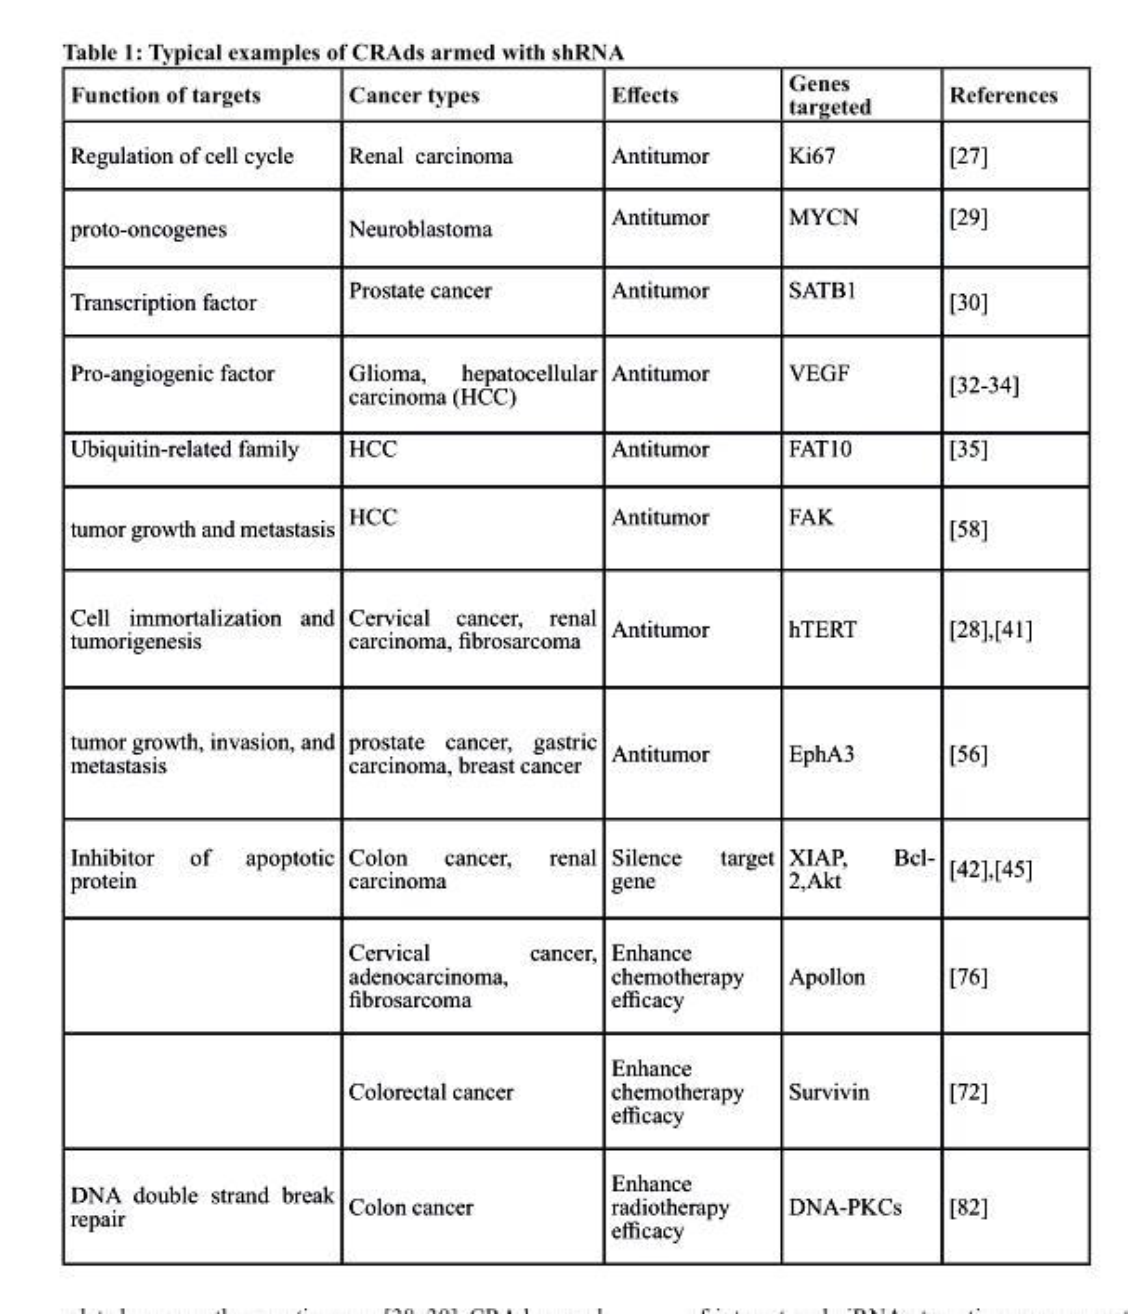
<table><thead><tr><td>Function of targets</td><td>Cancer types</td><td>Effects</td><td>genes targeted</td><td>references</td></tr></thead><tbody><tr><td>Regulation of cell cycle</td><td>Renal carcinoma</td><td>Antitumor</td><td>Ki67</td><td>[27]</td></tr><tr><td>proto-oncogenes</td><td>Neuroblastoma</td><td>Antitumor</td><td>MYCN</td><td>[29]</td></tr><tr><td>Transcription factor</td><td>Prostate cancer</td><td>Antitumor</td><td>SATB1</td><td>[30]</td></tr><tr><td>Pro-angiogenic factor</td><td>Glioma, hepatocellular carcinoma (HCC)</td><td>Antitumor</td><td>VEGF</td><td>[32-34]</td></tr><tr><td>Ubiquitin-related family</td><td>HCC</td><td>Antitumor</td><td>FAT10</td><td>[35]</td></tr><tr><td>tumor growth and metastasis</td><td>HCC</td><td>Antitumor</td><td>FAK</td><td>[58]</td></tr><tr><td>Cell immortalization and tumorigenesis</td><td>Cervical cancer, renal carcinoma, fibrosarcoma</td><td>Antitumor</td><td>hTERT</td><td>[28],[41]</td></tr><tr><td>tumor growth, invasion, and metastasis</td><td>prostate cancer, gastric carcinoma, breast cancer</td><td>Antitumor</td><td>EphA3</td><td>[56]</td></tr><tr><td rowspan="3">Inhibitor of apoptotic protein</td><td>Colon cancer, renal carcinoma</td><td>Silence target gene</td><td>XIAP, Bcl- 2,Akt</td><td>[42],[45]</td></tr><tr><td>Cervical cancer, adenocarcinoma, fibrosarcoma</td><td>Enhance chemotherapy efficacy</td><td>Apollon</td><td>[76]</td></tr><tr><td>Colorectal cancer</td><td>Enhance chemotherapy efficacy</td><td>Survivin</td><td>[72]</td></tr><tr><td>DNA double strand break repair</td><td>Colon cancer</td><td>Enhance radiotherapy efficacy</td><td>DNA-PKCs</td><td>[82]</td></tr></tbody></table>